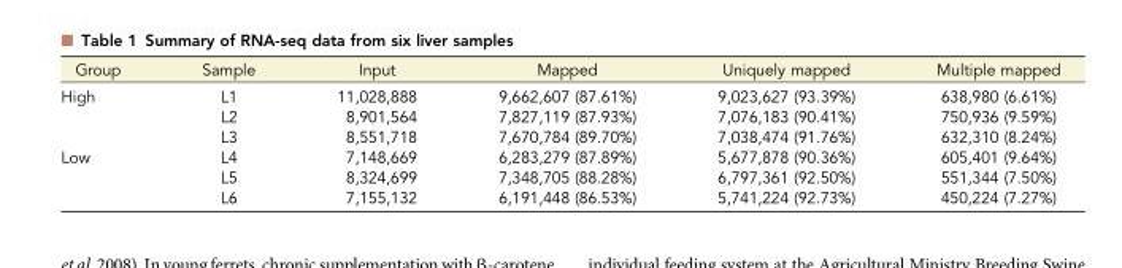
<table><thead><tr><td>Group</td><td>Sample</td><td>Input</td><td>Mapped</td><td>Uniquely mapped</td><td>Multiple mapped</td></tr></thead><tbody><tr><td rowspan="3">High</td><td>L1</td><td>11,028,888</td><td>9,662,607 (87.61%)</td><td>9,023,627 (93.39%)</td><td>638,980 (6.61%)</td></tr><tr><td>L2</td><td>8,901,564</td><td>7,827,119 (87.93%)</td><td>7,076,183 (90.41%)</td><td>750,936 (9.59%)</td></tr><tr><td>L3</td><td>8,551,718</td><td>7,670,784 (89.70%)</td><td>7,038,474 (91.76%)</td><td>632,310 (8.24%)</td></tr><tr><td rowspan="3">Low</td><td>L4</td><td>7,148,669</td><td>6,283,279 (87.89%)</td><td>5,677,878 (90.36%)</td><td>605,401 (9.64%)</td></tr><tr><td>L5</td><td>8,324,699</td><td>7,348,705 (88.28%)</td><td>6,797,361 (92.50%)</td><td>551,344 (7.50%)</td></tr><tr><td>L6</td><td>7,155,132</td><td>6,191,448 (86.53%)</td><td>5,741,224 (92.73%)</td><td>450,224 (7.27%)</td></tr></tbody></table>